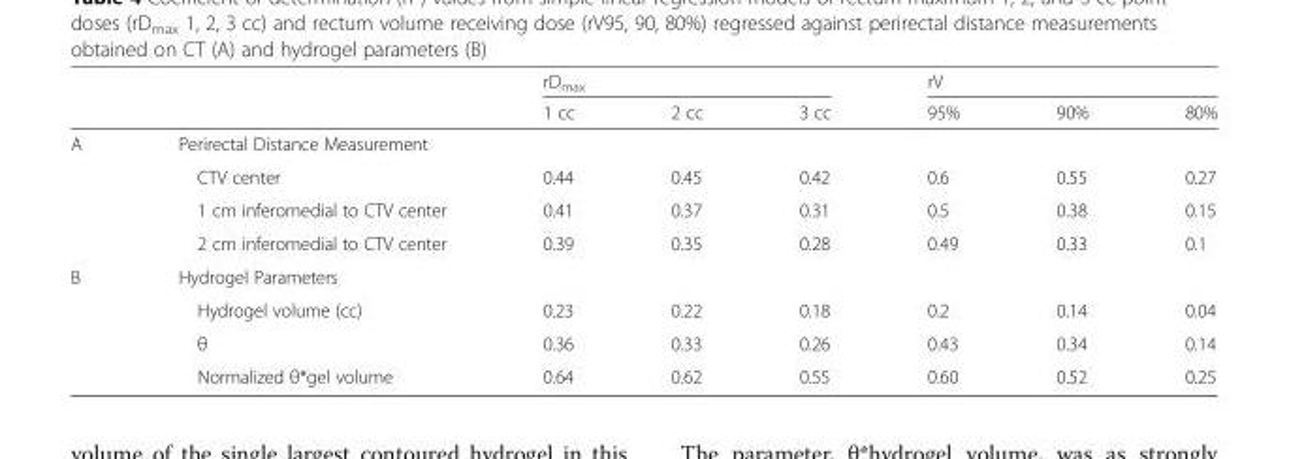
<table><thead><tr><td rowspan="2"></td><td rowspan="2"></td><td colspan="3">rD<sub>max</sub></td><td colspan="3">rV</td></tr><tr><td>1 cc</td><td>2 cc</td><td>3 cc</td><td>95%</td><td>90%</td><td>80%</td></tr></thead><tbody><tr><td rowspan="4">A</td><td colspan="7">Perirectal Distance Measurement</td></tr><tr><td>CTV center</td><td>0.44</td><td>0.45</td><td>0.42</td><td>0.6</td><td>0.55</td><td>0.27</td></tr><tr><td>1 cm inferomedial to CTV center</td><td>0.41</td><td>0.37</td><td>0.31</td><td>0.5</td><td>0.38</td><td>0.15</td></tr><tr><td>2 cm inferomedial to CTV center</td><td>0.39</td><td>0.35</td><td>0.28</td><td>0.49</td><td>0.33</td><td>0.1</td></tr><tr><td rowspan="4">B</td><td colspan="7">Hydrogel Parameters</td></tr><tr><td>Hydrogel volume (cc)</td><td>0.23</td><td>0.22</td><td>0.18</td><td>0.2</td><td>0.14</td><td>0.04</td></tr><tr><td>θ</td><td>0.36</td><td>0.33</td><td>0.26</td><td>0.43</td><td>0.34</td><td>0.14</td></tr><tr><td>Normalized θ*gel volume</td><td>0.64</td><td>0.62</td><td>0.55</td><td>0.60</td><td>0.52</td><td>0.25</td></tr></tbody></table>